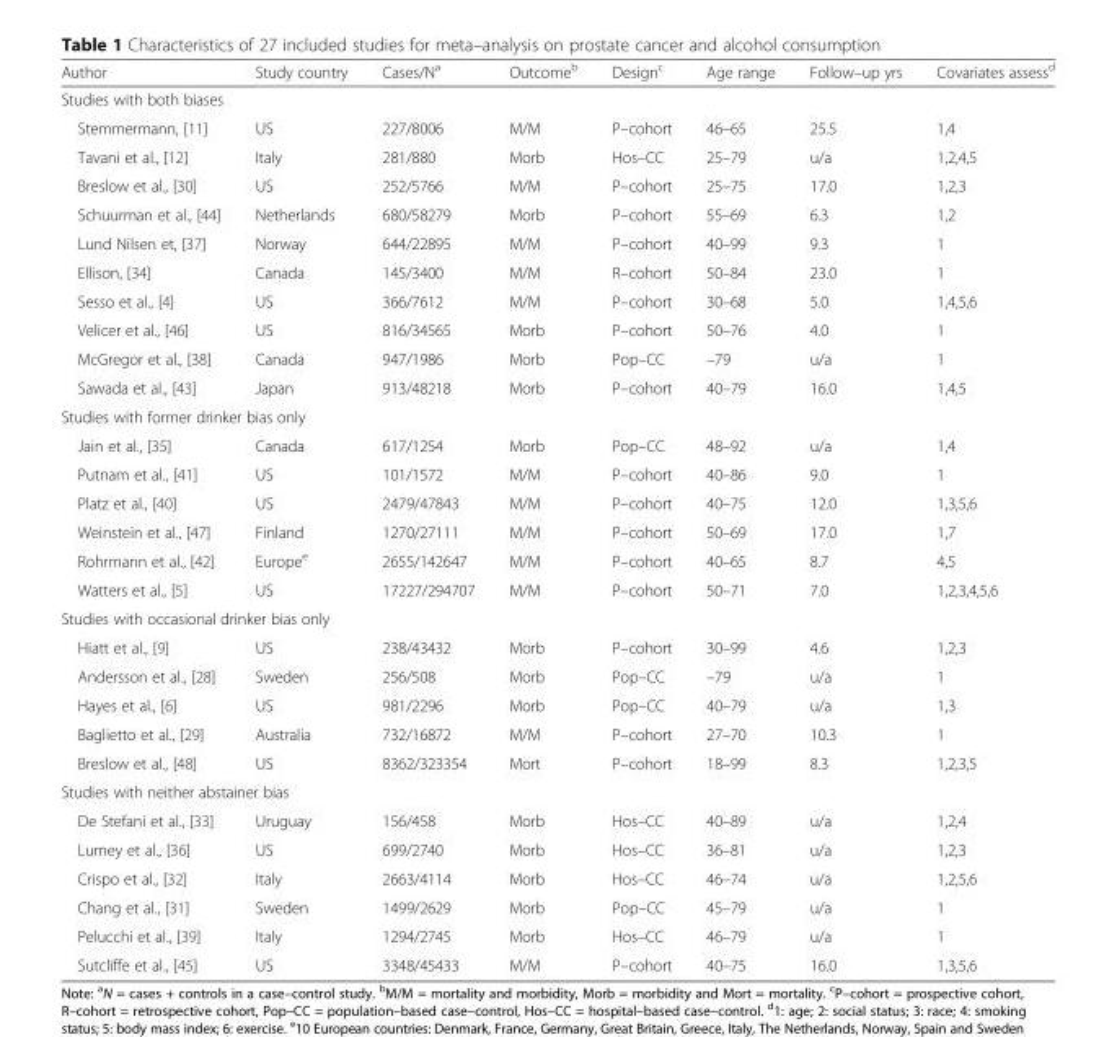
<table><thead><tr><td>Author</td><td>Study country</td><td>Cases/N<sup>a</sup></td><td>Outcome<sup>b</sup></td><td>Design<sup>c</sup></td><td>Age range</td><td>Follow–up yrs</td><td>Covariates assess<sup>d</sup></td></tr></thead><tbody><tr><td colspan="8">Studies with both biases</td></tr><tr><td>Stemmermann, [11]</td><td>US</td><td>227/8006</td><td>M/M</td><td>P–cohort</td><td>46–65</td><td>25.5</td><td>1,4</td></tr><tr><td>Tavani et al., [12]</td><td>Italy</td><td>281/880</td><td>Morb</td><td>Hos–CC</td><td>25–79</td><td>u/a</td><td>1,2,4,5</td></tr><tr><td>Breslow et al., [30]</td><td>US</td><td>252/5766</td><td>M/M</td><td>P–cohort</td><td>25–75</td><td>17.0</td><td>1,2,3</td></tr><tr><td>Schuurman et al., [44]</td><td>Netherlands</td><td>680/58279</td><td>Morb</td><td>P–cohort</td><td>55–69</td><td>6.3</td><td>1,2</td></tr><tr><td>Lund Nilsen et, [37]</td><td>Norway</td><td>644/22895</td><td>M/M</td><td>P–cohort</td><td>40–99</td><td>9.3</td><td>1</td></tr><tr><td>Ellison, [34]</td><td>Canada</td><td>145/3400</td><td>M/M</td><td>R–cohort</td><td>50–84</td><td>23.0</td><td>1</td></tr><tr><td>Sesso et al., [4]</td><td>US</td><td>366/7612</td><td>M/M</td><td>P–cohort</td><td>30–68</td><td>5.0</td><td>1,4,5,6</td></tr><tr><td>Velicer et al., [46]</td><td>US</td><td>816/34565</td><td>Morb</td><td>P–cohort</td><td>50–76</td><td>4.0</td><td>1</td></tr><tr><td>McGregor et al., [38]</td><td>Canada</td><td>947/1986</td><td>Morb</td><td>Pop–CC</td><td>–79</td><td>u/a</td><td>1</td></tr><tr><td>Sawada et al., [43]</td><td>Japan</td><td>913/48218</td><td>Morb</td><td>P–cohort</td><td>40–79</td><td>16.0</td><td>1,4,5</td></tr><tr><td colspan="8">Studies with former drinker bias only</td></tr><tr><td>Jain et al., [35]</td><td>Canada</td><td>617/1254</td><td>Morb</td><td>Pop–CC</td><td>48–92</td><td>u/a</td><td>1,4</td></tr><tr><td>Putnam et al., [41]</td><td>US</td><td>101/1572</td><td>M/M</td><td>P–cohort</td><td>40–86</td><td>9.0</td><td>1</td></tr><tr><td>Platz et al., [40]</td><td>US</td><td>2479/47843</td><td>M/M</td><td>P–cohort</td><td>40–75</td><td>12.0</td><td>1,3,5,6</td></tr><tr><td>Weinstein et al., [47]</td><td>Finland</td><td>1270/27111</td><td>M/M</td><td>P–cohort</td><td>50–69</td><td>17.0</td><td>1,7</td></tr><tr><td>Rohrmann et al., [42]</td><td>Europe<sup>e</sup></td><td>2655/142647</td><td>M/M</td><td>P–cohort</td><td>40–65</td><td>8.7</td><td>4,5</td></tr><tr><td>Watters et al., [5]</td><td>US</td><td>17227/294707</td><td>M/M</td><td>P–cohort</td><td>50–71</td><td>7.0</td><td>1,2,3,4,5,6</td></tr><tr><td colspan="8">Studies with occasional drinker bias only</td></tr><tr><td>Hiatt et al., [9]</td><td>US</td><td>238/43432</td><td>Morb</td><td>P–cohort</td><td>30–99</td><td>4.6</td><td>1,2,3</td></tr><tr><td>Andersson et al., [28]</td><td>Sweden</td><td>256/508</td><td>Morb</td><td>Pop–CC</td><td>–79</td><td>u/a</td><td>1</td></tr><tr><td>Hayes et al., [6]</td><td>US</td><td>981/2296</td><td>Morb</td><td>Pop–CC</td><td>40–79</td><td>u/a</td><td>1,3</td></tr><tr><td>Baglietto et al., [29]</td><td>Australia</td><td>732/16872</td><td>M/M</td><td>P–cohort</td><td>27–70</td><td>10.3</td><td>1</td></tr><tr><td>Breslow et al., [48]</td><td>US</td><td>8362/323354</td><td>Mort</td><td>P–cohort</td><td>18–99</td><td>8.3</td><td>1,2,3,5</td></tr><tr><td colspan="8">Studies with neither abstainer bias</td></tr><tr><td>De Stefani et al., [33]</td><td>Uruguay</td><td>156/458</td><td>Morb</td><td>Hos–CC</td><td>40–89</td><td>u/a</td><td>1,2,4</td></tr><tr><td>Lumey et al., [36]</td><td>US</td><td>699/2740</td><td>Morb</td><td>Hos–CC</td><td>36–81</td><td>u/a</td><td>1,2,3</td></tr><tr><td>Crispo et al., [32]</td><td>Italy</td><td>2663/4114</td><td>Morb</td><td>Hos–CC</td><td>46–74</td><td>u/a</td><td>1,2,5,6</td></tr><tr><td>Chang et al., [31]</td><td>Sweden</td><td>1499/2629</td><td>Morb</td><td>Pop–CC</td><td>45–79</td><td>u/a</td><td>1</td></tr><tr><td>Pelucchi et al., [39]</td><td>Italy</td><td>1294/2745</td><td>Morb</td><td>Hos–CC</td><td>46–79</td><td>u/a</td><td>1</td></tr><tr><td>Sutcliffe et al., [45]</td><td>US</td><td>3348/45433</td><td>M/M</td><td>P–cohort</td><td>40–75</td><td>16.0</td><td>1,3,5,6</td></tr></tbody></table>